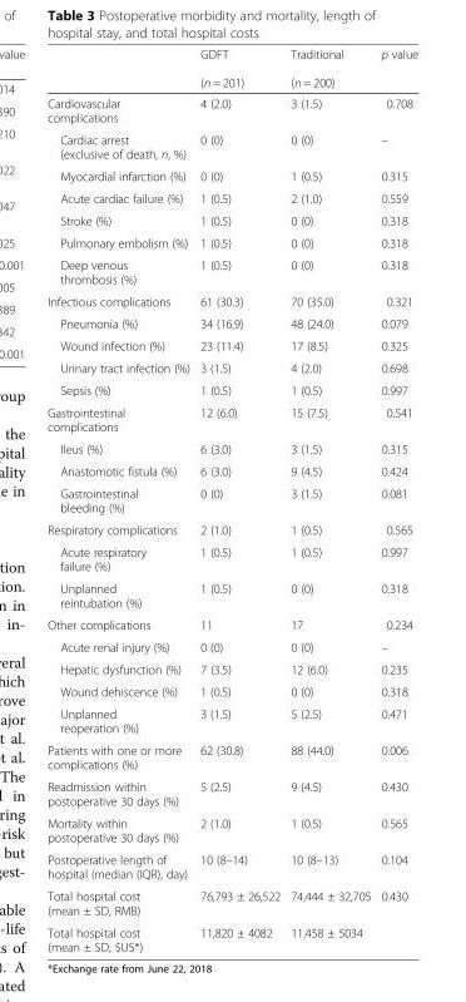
<table><thead><tr><td></td><td>GDFT (n = 201)</td><td>Traditional (n = 200)</td><td>p value</td></tr></thead><tbody><tr><td>Cardiovascular complications</td><td>4 (2.0)</td><td>3 (1.5)</td><td>0.708</td></tr><tr><td>Cardiac arrest (exclusive of death, n, %)</td><td>0 (0)</td><td>0 (0)</td><td>–</td></tr><tr><td>Myocardial infarction (%)</td><td>0 (0)</td><td>1 (0.5)</td><td>0.315</td></tr><tr><td>Acute cardiac failure (%)</td><td>1 (0.5)</td><td>2 (1.0)</td><td>0.559</td></tr><tr><td>Stroke (%)</td><td>1 (0.5)</td><td>0 (0)</td><td>0.318</td></tr><tr><td>Pulmonary embolism (%)</td><td>1 (0.5)</td><td>0 (0)</td><td>0.318</td></tr><tr><td>Deep venous thrombosis (%)</td><td>1 (0.5)</td><td>0 (0)</td><td>0.318</td></tr><tr><td>Infectious complications</td><td>61 (30.3)</td><td>70 (35.0)</td><td>0.321</td></tr><tr><td>Pneumonia (%)</td><td>34 (16.9)</td><td>48 (24.0)</td><td>0.079</td></tr><tr><td>Wound infection (%)</td><td>23 (11.4)</td><td>17 (8.5)</td><td>0.325</td></tr><tr><td>Urinary tract infection (%)</td><td>3 (1.5)</td><td>4 (2.0)</td><td>0.698</td></tr><tr><td>Sepsis (%)</td><td>1 (0.5)</td><td>1 (0.5)</td><td>0.997</td></tr><tr><td>Gastrointestinal complications</td><td>12 (6.0)</td><td>15 (7.5)</td><td>0.541</td></tr><tr><td>Ileus (%)</td><td>6 (3.0)</td><td>3 (1.5)</td><td>0.315</td></tr><tr><td>Anastomotic fistula (%)</td><td>6 (3.0)</td><td>9 (4.5)</td><td>0.424</td></tr><tr><td>Gastrointestinal bleeding (%)</td><td>0 (0)</td><td>3 (1.5)</td><td>0.081</td></tr><tr><td>Respiratory complications</td><td>2 (1.0)</td><td>1 (0.5)</td><td>0.565</td></tr><tr><td>Acute respiratory failure (%)</td><td>1 (0.5)</td><td>1 (0.5)</td><td>0.997</td></tr><tr><td>Unplanned reintubation (%)</td><td>1 (0.5)</td><td>0 (0)</td><td>0.318</td></tr><tr><td>Other complications</td><td>11</td><td>17</td><td>0.234</td></tr><tr><td>Acute renal injury (%)</td><td>0 (0)</td><td>0 (0)</td><td>–</td></tr><tr><td>Hepatic dysfunction (%)</td><td>7 (3.5)</td><td>12 (6.0)</td><td>0.235</td></tr><tr><td>Wound dehiscence (%)</td><td>1 (0.5)</td><td>0 (0)</td><td>0.318</td></tr><tr><td>Unplanned reoperation (%)</td><td>3 (1.5)</td><td>5 (2.5)</td><td>0.471</td></tr><tr><td>Patients with one or more complications (%)</td><td>62 (30.8)</td><td>88 (44.0)</td><td>0.006</td></tr><tr><td>Readmission within postoperative 30 days (%)</td><td>5 (2.5)</td><td>9 (4.5)</td><td>0.430</td></tr><tr><td>Mortality within postoperative 30 days (%)</td><td>2 (1.0)</td><td>1 (0.5)</td><td>0.565</td></tr><tr><td>Postoperative length of hospital (median (IQR), day)</td><td>10 (8–14)</td><td>10 (8–13)</td><td>0.104</td></tr><tr><td>Total hospital cost (mean ± SD, RMB)</td><td>76,793 ± 26,522</td><td>74,444 ± 32,705</td><td>0.430</td></tr><tr><td>Total hospital cost (mean ± SD, $US*)</td><td>11,820 ± 4082</td><td>11,458 ± 5034</td><td></td></tr></tbody></table>